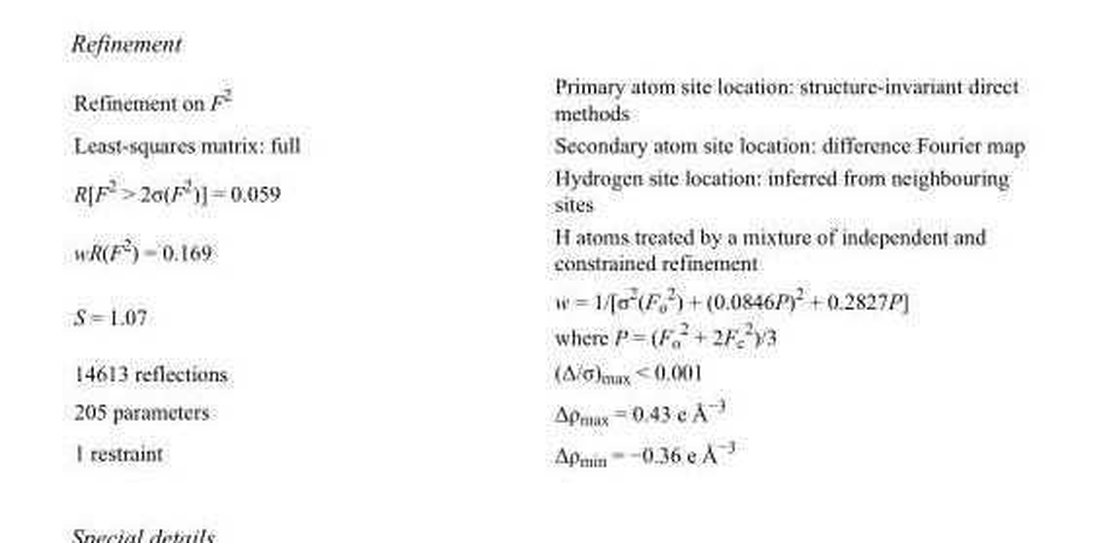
<table><tbody><tr><td>Refinement on F<sup>2</sup></td><td>Primary atom site location: structure-invariant direct methods</td></tr><tr><td>Least-squares matrix: full</td><td>Secondary atom site location: difference Fourier map</td></tr><tr><td>R[F<sup>2</sup> &gt; 2σ(F<sup>2</sup>)] = 0.059</td><td>Hydrogen site location: inferred from neighbouring sites</td></tr><tr><td>wR(F<sup>2</sup>) = 0.169</td><td>H atoms treated by a mixture of independent and constrained refinement</td></tr><tr><td>S = 1.07</td><td>w = 1/[σ<sup>2</sup>(F<sub>o</sub> <sup>2</sup>) + (0.0846P)<sup>2</sup> + 0.2827P] where P = (F<sub>o</sub> <sup>2</sup> + 2F<sub>c</sub> <sup>2</sup>)/3</td></tr><tr><td>14613 reflections</td><td>(Δ/σ)<sub>max</sub> &lt; 0.001</td></tr><tr><td>205 parameters</td><td>Δρ<sub>max</sub> = 0.43 e Å<sup>−3</sup></td></tr><tr><td>1 restraint</td><td>Δρ<sub>min</sub> = −0.36 e Å<sup>−3</sup></td></tr></tbody></table>